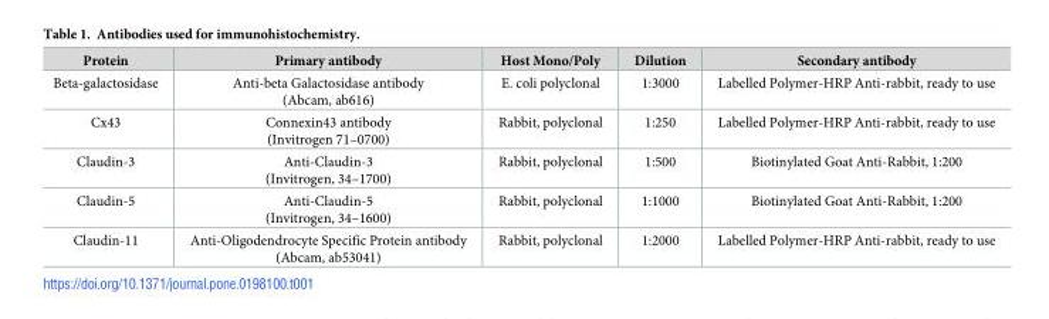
<table><thead><tr><td>Protein</td><td>Primary antibody</td><td>Host Mono/Poly</td><td>Dilution</td><td>Secondary antibody</td></tr></thead><tbody><tr><td>Beta-galactosidase</td><td>Anti-beta Galactosidase antibody (Abcam, ab616)</td><td>E. coli polyclonal</td><td>1:3000</td><td>Labelled Polymer-HRP Anti-rabbit, ready to use</td></tr><tr><td>Cx43</td><td>Connexin43 antibody (Invitrogen 71–0700)</td><td>Rabbit, polyclonal</td><td>1:250</td><td>Labelled Polymer-HRP Anti-rabbit, ready to use</td></tr><tr><td>Claudin-3</td><td>Anti-Claudin-3 (Invitrogen, 34–1700)</td><td>Rabbit, polyclonal</td><td>1:500</td><td>Biotinylated Goat Anti-Rabbit, 1:200</td></tr><tr><td>Claudin-5</td><td>Anti-Claudin-5 (Invitrogen, 34–1600)</td><td>Rabbit, polyclonal</td><td>1:1000</td><td>Biotinylated Goat Anti-Rabbit, 1:200</td></tr><tr><td>Claudin-11</td><td>Anti-Oligodendrocyte Specific Protein antibody (Abcam, ab53041)</td><td>Rabbit, polyclonal</td><td>1:2000</td><td>Labelled Polymer-HRP Anti-rabbit, ready to use</td></tr></tbody></table>